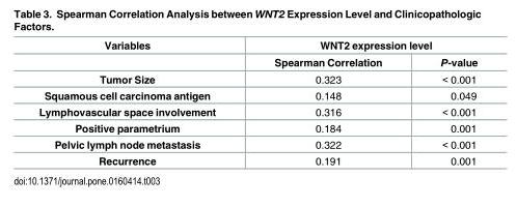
<table><thead><tr><td rowspan="2">Variables</td><td colspan="2">WNT2 expression level</td></tr><tr><td>Spearman Correlation</td><td>P-value</td></tr></thead><tbody><tr><td>Tumor Size</td><td>0.323</td><td>&lt; 0.001</td></tr><tr><td>Squamous cell carcinoma antigen</td><td>0.148</td><td>0.049</td></tr><tr><td>Lymphovascular space involvement</td><td>0.316</td><td>&lt; 0.001</td></tr><tr><td>Positive parametrium</td><td>0.184</td><td>0.001</td></tr><tr><td>Pelvic lymph node metastasis</td><td>0.322</td><td>&lt; 0.001</td></tr><tr><td>Recurrence</td><td>0.191</td><td>0.001</td></tr></tbody></table>